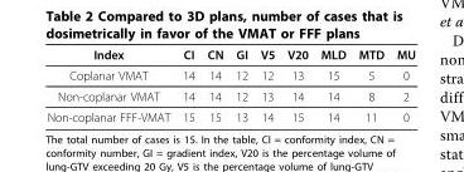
<table><thead><tr><td>Index</td><td>CI</td><td>CN</td><td>GI</td><td>V5</td><td>V20</td><td>MLD</td><td>MTD</td><td>MU</td></tr></thead><tbody><tr><td>Coplanar VMAT</td><td>14</td><td>14</td><td>12</td><td>12</td><td>13</td><td>15</td><td>5</td><td>0</td></tr><tr><td>Non-coplanar VMAT</td><td>14</td><td>14</td><td>12</td><td>13</td><td>14</td><td>14</td><td>8</td><td>2</td></tr><tr><td>Non-coplanar FFF-VMAT</td><td>15</td><td>15</td><td>13</td><td>14</td><td>15</td><td>14</td><td>11</td><td>0</td></tr></tbody></table>